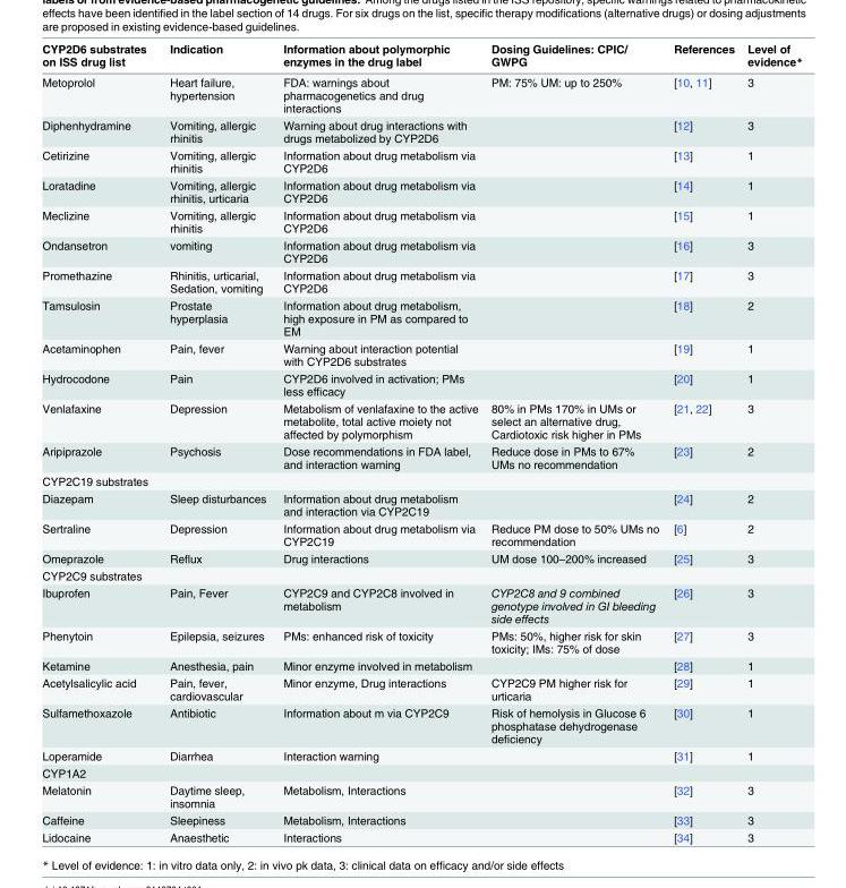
<table><thead><tr><td>CYP2D6 substrates on ISS drug list</td><td>Indication</td><td>Information about polymorphic enzymes in the drug label</td><td>Dosing Guidelines: CPIC/ GWPG</td><td>References</td><td>Level of evidence*</td></tr></thead><tbody><tr><td>Metoprolol</td><td>Heart failure, hypertension</td><td>FDA: warnings about pharmacogenetics and drug interactions</td><td>PM: 75% UM: up to 250%</td><td>[10, 11]</td><td>3</td></tr><tr><td>Diphenhydramine</td><td>Vomiting, allergic rhinitis</td><td>Warning about drug interactions with drugs metabolized by CYP2D6</td><td></td><td>[12]</td><td>3</td></tr><tr><td>Cetirizine</td><td>Vomiting, allergic rhinitis</td><td>Information about drug metabolism via CYP2D6</td><td></td><td>[13]</td><td>1</td></tr><tr><td>Loratadine</td><td>Vomiting, allergic rhinitis, urticaria</td><td>Information about drug metabolism via CYP2D6</td><td></td><td>[14]</td><td>1</td></tr><tr><td>Meclizine</td><td>Vomiting, allergic rhinitis</td><td>Information about drug metabolism via CYP2D6</td><td></td><td>[15]</td><td>1</td></tr><tr><td>Ondansetron</td><td>vomiting</td><td>Information about drug metabolism via CYP2D6</td><td></td><td>[16]</td><td>3</td></tr><tr><td>Promethazine</td><td>Rhinitis, urticarial, Sedation, vomiting</td><td>Information about drug metabolism via CYP2D6</td><td></td><td>[17]</td><td>3</td></tr><tr><td>Tamsulosin</td><td>Prostate hyperplasia</td><td>Information about drug metabolism, high exposure in PM as compared to EM</td><td></td><td>[18]</td><td>2</td></tr><tr><td>Acetaminophen</td><td>Pain, fever</td><td>Warning about interaction potential with CYP2D6 substrates</td><td></td><td>[19]</td><td>1</td></tr><tr><td>Hydrocodone</td><td>Pain</td><td>CYP2D6 involved in activation; PMs less efficacy</td><td></td><td>[20]</td><td>1</td></tr><tr><td>Venlafaxine</td><td>Depression</td><td>Metabolism of venlafaxine to the active metabolite, total active moiety not affected by polymorphism</td><td>80% in PMs 170% in UMs or select an alternative drug, Cardiotoxic risk higher in PMs</td><td>[21, 22]</td><td>3</td></tr><tr><td>Aripiprazole</td><td>Psychosis</td><td>Dose recommendations in FDA label, and interaction warning</td><td>Reduce dose in PMs to 67% UMs no recommendation</td><td>[23]</td><td>2</td></tr><tr><td colspan="6">CYP2C19 substrates</td></tr><tr><td>Diazepam</td><td>Sleep disturbances</td><td>Information about drug metabolism and interaction via CYP2C19</td><td></td><td>[24]</td><td>2</td></tr><tr><td>Sertraline</td><td>Depression</td><td>Information about drug metabolism via CYP2C19</td><td>Reduce PM dose to 50% UMs no recommendation</td><td>[6]</td><td>2</td></tr><tr><td>Omeprazole</td><td>Reflux</td><td>Drug interactions</td><td>UM dose 100–200% increased</td><td>[25]</td><td>3</td></tr><tr><td colspan="6">CYP2C9 substrates</td></tr><tr><td>Ibuprofen</td><td>Pain, Fever</td><td>CYP2C9 and CYP2C8 involved in metabolism</td><td>CYP2C8 and 9 combined genotype involved in GI bleeding side effects</td><td>[26]</td><td>3</td></tr><tr><td>Phenytoin</td><td>Epilepsia, seizures</td><td>PMs: enhanced risk of toxicity</td><td>PMs: 50%, higher risk for skin toxicity; IMs: 75% of dose</td><td>[27]</td><td>3</td></tr><tr><td>Ketamine</td><td>Anesthesia, pain</td><td>Minor enzyme involved in metabolism</td><td></td><td>[28]</td><td>1</td></tr><tr><td>Acetylsalicylic acid</td><td>Pain, fever, cardiovascular</td><td>Minor enzyme, Drug interactions</td><td>CYP2C9 PM higher risk for urticaria</td><td>[29]</td><td>1</td></tr><tr><td>Sulfamethoxazole</td><td>Antibiotic</td><td>Information about m via CYP2C9</td><td>Risk of hemolysis in Glucose 6 phosphatase dehydrogenase deficiency</td><td>[30]</td><td>1</td></tr><tr><td>Loperamide</td><td>Diarrhea</td><td>Interaction warning</td><td></td><td>[31]</td><td>1</td></tr><tr><td colspan="6">CYP1A2</td></tr><tr><td>Melatonin</td><td>Daytime sleep, insomnia</td><td>Metabolism, Interactions</td><td></td><td>[32]</td><td>3</td></tr><tr><td>Caffeine</td><td>Sleepiness</td><td>Metabolism, Interactions</td><td></td><td>[33]</td><td>3</td></tr><tr><td>Lidocaine</td><td>Anaesthetic</td><td>Interactions</td><td></td><td>[34]</td><td>3</td></tr></tbody></table>